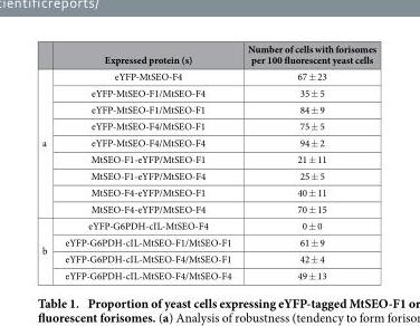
<table><thead><tr><td></td><td>Expressed protein (s)</td><td>Number of cells with forisomes per 100 fluorescent yeast cells</td></tr></thead><tbody><tr><td rowspan="9">a</td><td>eYFP-MtSEO-F4</td><td>67 ± 23</td></tr><tr><td>eYFP-MtSEO-F1/MtSEO-F4</td><td>35 ± 5</td></tr><tr><td>eYFP-MtSEO-F1/MtSEO-F1</td><td>84 ± 9</td></tr><tr><td>eYFP-MtSEO-F4/MtSEO-F1</td><td>75 ± 5</td></tr><tr><td>eYFP-MtSEO-F4/MtSEO-F4</td><td>94 ± 2</td></tr><tr><td>MtSEO-F1-eYFP/MtSEO-F1</td><td>21 ± 11</td></tr><tr><td>MtSEO-F1-eYFP/MtSEO-F4</td><td>25 ± 5</td></tr><tr><td>MtSEO-F4-eYFP/MtSEO-F1</td><td>40 ± 11</td></tr><tr><td>MtSEO-F4-eYFP/MtSEO-F4</td><td>70 ± 15</td></tr><tr><td rowspan="4">b</td><td>eYFP-G6PDH-cIL-MtSEO-F4</td><td>0 ± 0</td></tr><tr><td>eYFP-G6PDH-cIL-MtSEO-F1/MtSEO-F1</td><td>61 ± 9</td></tr><tr><td>eYFP-G6PDH-cIL-MtSEO-F4/MtSEO-F1</td><td>42 ± 4</td></tr><tr><td>eYFP-G6PDH-cIL-MtSEO-F4/MtSEO-F4</td><td>49 ± 13</td></tr></tbody></table>